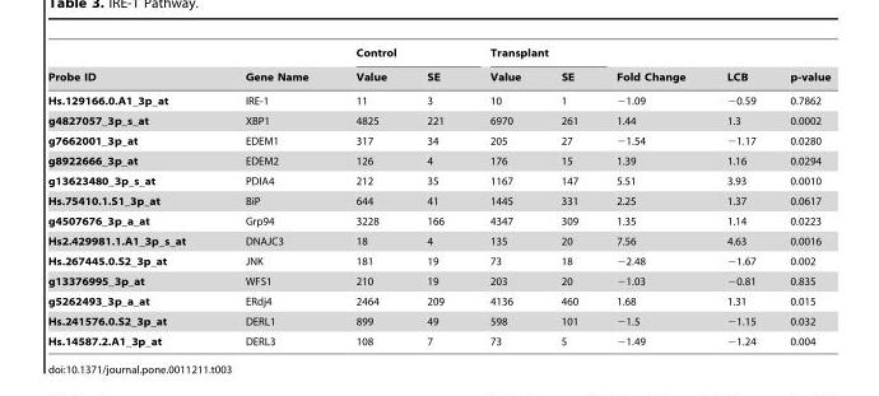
<table><thead><tr><td rowspan="2">Probe ID</td><td rowspan="2">Gene Name</td><td colspan="2">Control</td><td colspan="2">Transplant</td><td rowspan="2">Fold Change</td><td rowspan="2">LCB</td><td rowspan="2">p-value</td></tr><tr><td>Value</td><td>SE</td><td>Value</td><td>SE</td></tr></thead><tbody><tr><td>Hs.129166.0.A1_3p_at</td><td>IRE-1</td><td>11</td><td>3</td><td>10</td><td>1</td><td>−1.09</td><td>−0.59</td><td>0.7862</td></tr><tr><td>g4827057_3p_s_at</td><td>XBP1</td><td>4825</td><td>221</td><td>6970</td><td>261</td><td>1.44</td><td>1.3</td><td>0.0002</td></tr><tr><td>g7662001_3p_at</td><td>EDEM1</td><td>317</td><td>34</td><td>205</td><td>27</td><td>−1.54</td><td>−1.17</td><td>0.0280</td></tr><tr><td>g8922666_3p_at</td><td>EDEM2</td><td>126</td><td>4</td><td>176</td><td>15</td><td>1.39</td><td>1.16</td><td>0.0294</td></tr><tr><td>g13623480_3p_s_at</td><td>PDIA4</td><td>212</td><td>35</td><td>1167</td><td>147</td><td>5.51</td><td>3.93</td><td>0.0010</td></tr><tr><td>Hs.75410.1.S1_3p_at</td><td>BiP</td><td>644</td><td>41</td><td>1445</td><td>331</td><td>2.25</td><td>1.37</td><td>0.0617</td></tr><tr><td>g4507676_3p_a_at</td><td>Grp94</td><td>3228</td><td>166</td><td>4347</td><td>309</td><td>1.35</td><td>1.14</td><td>0.0223</td></tr><tr><td>Hs2.429981.1.A1_3p_s_at</td><td>DNAJC3</td><td>18</td><td>4</td><td>135</td><td>20</td><td>7.56</td><td>4.63</td><td>0.0016</td></tr><tr><td>Hs.267445.0.S2_3p_at</td><td>JNK</td><td>181</td><td>19</td><td>73</td><td>18</td><td>−2.48</td><td>−1.67</td><td>0.002</td></tr><tr><td>g13376995_3p_at</td><td>WFS1</td><td>210</td><td>19</td><td>203</td><td>20</td><td>−1.03</td><td>−0.81</td><td>0.835</td></tr><tr><td>g5262493_3p_a_at</td><td>ERdj4</td><td>2464</td><td>209</td><td>4136</td><td>460</td><td>1.68</td><td>1.31</td><td>0.015</td></tr><tr><td>Hs.241576.0.S2_3p_at</td><td>DERL1</td><td>899</td><td>49</td><td>598</td><td>101</td><td>−1.5</td><td>−1.15</td><td>0.032</td></tr><tr><td>Hs.14587.2.A1_3p_at</td><td>DERL3</td><td>108</td><td>7</td><td>73</td><td>5</td><td>−1.49</td><td>−1.24</td><td>0.004</td></tr></tbody></table>